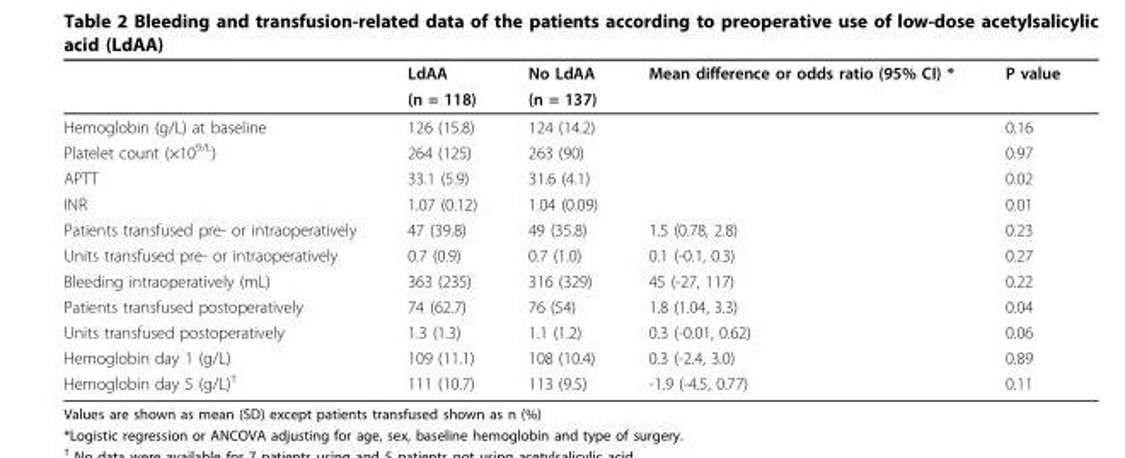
<table><thead><tr><td rowspan="2"></td><td rowspan="2">LdAA (n = 118)</td><td rowspan="2">No LdAA (n = 137)</td><td rowspan="2">Mean difference or odds ratio (95% CI) *</td><td rowspan="2">P value</td></tr><tr></tr></thead><tbody><tr><td>Hemoglobin (g/L) at baseline</td><td>126 (15.8)</td><td>124 (14.2)</td><td></td><td>0.16</td></tr><tr><td>Platelet count (×10<sup>9/L</sup>)</td><td>264 (125)</td><td>263 (90)</td><td></td><td>0.97</td></tr><tr><td>APTT</td><td>33.1 (5.9)</td><td>31.6 (4.1)</td><td></td><td>0.02</td></tr><tr><td>INR</td><td>1.07 (0.12)</td><td>1.04 (0.09)</td><td></td><td>0.01</td></tr><tr><td>Patients transfused pre- or intraoperatively</td><td>47 (39.8)</td><td>49 (35.8)</td><td>1.5 (0.78, 2.8)</td><td>0.23</td></tr><tr><td>Units transfused pre- or intraoperatively</td><td>0.7 (0.9)</td><td>0.7 (1.0)</td><td>0.1 (-0.1, 0.3)</td><td>0.27</td></tr><tr><td>Bleeding intraoperatively (mL)</td><td>363 (235)</td><td>316 (329)</td><td>45 (-27, 117)</td><td>0.22</td></tr><tr><td>Patients transfused postoperatively</td><td>74 (62.7)</td><td>76 (54)</td><td>1.8 (1.04, 3.3)</td><td>0.04</td></tr><tr><td>Units transfused postoperatively</td><td>1.3 (1.3)</td><td>1.1 (1.2)</td><td>0.3 (-0.01, 0.62)</td><td>0.06</td></tr><tr><td>Hemoglobin day 1 (g/L)</td><td>109 (11.1)</td><td>108 (10.4)</td><td>0.3 (-2.4, 3.0)</td><td>0.89</td></tr><tr><td>Hemoglobin day 5 (g/L)<sup>†</sup></td><td>111 (10.7)</td><td>113 (9.5)</td><td>-1.9 (-4.5, 0.77)</td><td>0.11</td></tr></tbody></table>